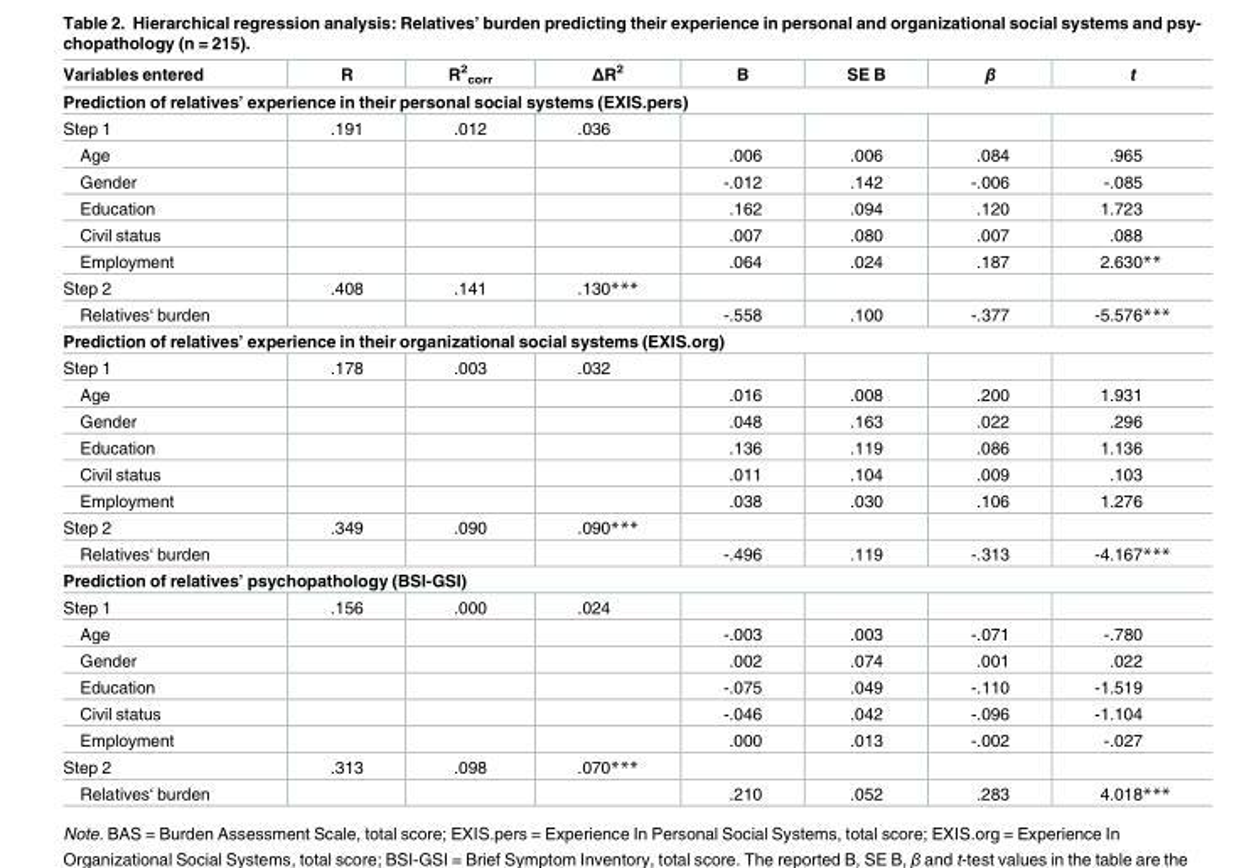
<table><thead><tr><td>Variables entered</td><td>R</td><td>R<sup>2</sup> <sub>corr</sub></td><td>ΔR<sup>2</sup></td><td>B</td><td>SE B</td><td>β</td><td>t</td></tr></thead><tbody><tr><td colspan="8">Prediction of relatives’ experience in their personal social systems (EXIS.pers)</td></tr><tr><td>Step 1</td><td>.191</td><td>.012</td><td>.036</td><td></td><td></td><td></td><td></td></tr><tr><td>Age</td><td></td><td></td><td></td><td>.006</td><td>.006</td><td>.084</td><td>.965</td></tr><tr><td>Gender</td><td></td><td></td><td></td><td>-.012</td><td>.142</td><td>-.006</td><td>-.085</td></tr><tr><td>Education</td><td></td><td></td><td></td><td>.162</td><td>.094</td><td>.120</td><td>1.723</td></tr><tr><td>Civil status</td><td></td><td></td><td></td><td>.007</td><td>.080</td><td>.007</td><td>.088</td></tr><tr><td>Employment</td><td></td><td></td><td></td><td>.064</td><td>.024</td><td>.187</td><td>2.630**</td></tr><tr><td>Step 2</td><td>.408</td><td>.141</td><td>.130***</td><td></td><td></td><td></td><td></td></tr><tr><td>Relatives‘ burden</td><td></td><td></td><td></td><td>-.558</td><td>.100</td><td>-.377</td><td>-5.576***</td></tr><tr><td colspan="8">Prediction of relatives’ experience in their organizational social systems (EXIS.org)</td></tr><tr><td>Step 1</td><td>.178</td><td>.003</td><td>.032</td><td></td><td></td><td></td><td></td></tr><tr><td>Age</td><td></td><td></td><td></td><td>.016</td><td>.008</td><td>.200</td><td>1.931</td></tr><tr><td>Gender</td><td></td><td></td><td></td><td>.048</td><td>.163</td><td>.022</td><td>.296</td></tr><tr><td>Education</td><td></td><td></td><td></td><td>.136</td><td>.119</td><td>.086</td><td>1.136</td></tr><tr><td>Civil status</td><td></td><td></td><td></td><td>.011</td><td>.104</td><td>.009</td><td>.103</td></tr><tr><td>Employment</td><td></td><td></td><td></td><td>.038</td><td>.030</td><td>.106</td><td>1.276</td></tr><tr><td>Step 2</td><td>.349</td><td>.090</td><td>.090***</td><td></td><td></td><td></td><td></td></tr><tr><td>Relatives‘ burden</td><td></td><td></td><td></td><td>-.496</td><td>.119</td><td>-.313</td><td>-4.167***</td></tr><tr><td colspan="8">Prediction of relatives’ psychopathology (BSI-GSI)</td></tr><tr><td>Step 1</td><td>.156</td><td>.000</td><td>.024</td><td></td><td></td><td></td><td></td></tr><tr><td>Age</td><td></td><td></td><td></td><td>-.003</td><td>.003</td><td>-.071</td><td>-.780</td></tr><tr><td>Gender</td><td></td><td></td><td></td><td>.002</td><td>.074</td><td>.001</td><td>.022</td></tr><tr><td>Education</td><td></td><td></td><td></td><td>-.075</td><td>.049</td><td>-.110</td><td>-1.519</td></tr><tr><td>Civil status</td><td></td><td></td><td></td><td>-.046</td><td>.042</td><td>-.096</td><td>-1.104</td></tr><tr><td>Employment</td><td></td><td></td><td></td><td>.000</td><td>.013</td><td>-.002</td><td>-.027</td></tr><tr><td>Step 2</td><td>.313</td><td>.098</td><td>.070***</td><td></td><td></td><td></td><td></td></tr><tr><td>Relatives‘ burden</td><td></td><td></td><td></td><td>.210</td><td>.052</td><td>.283</td><td>4.018***</td></tr></tbody></table>